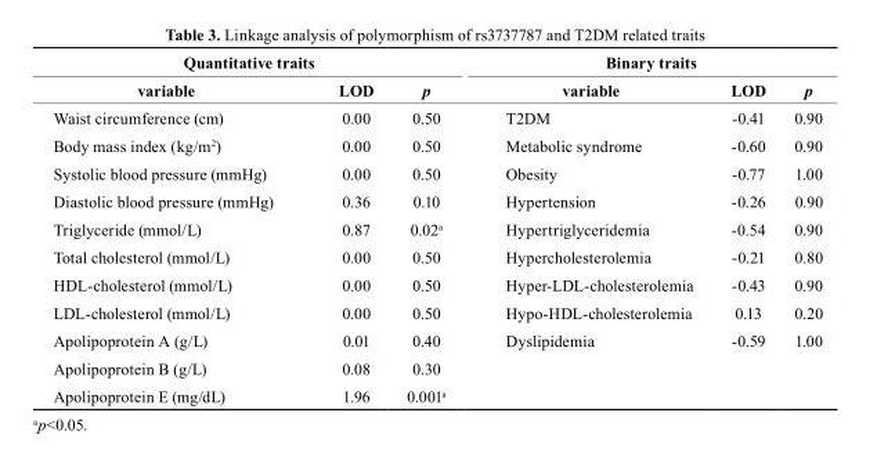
<table><thead><tr><td colspan="3">Quantitative traits</td><td colspan="3">binary traits</td></tr><tr><td>variable</td><td>LoD</td><td>p</td><td>variable</td><td>LoD</td><td>p</td></tr></thead><tbody><tr><td>Waist circumference (cm)</td><td>0.00</td><td>0.50</td><td>T2DM</td><td>-0.41</td><td>0.90</td></tr><tr><td>Body mass index (kg/m<sup>2</sup>)</td><td>0.00</td><td>0.50</td><td>Metabolic syndrome</td><td>-0.60</td><td>0.90</td></tr><tr><td>Systolic blood pressure (mmHg)</td><td>0.00</td><td>0.50</td><td>Obesity</td><td>-0.77</td><td>1.00</td></tr><tr><td>Diastolic blood pressure (mmHg)</td><td>0.36</td><td>0.10</td><td>Hypertension</td><td>-0.26</td><td>0.90</td></tr><tr><td>Triglyceride (mmol/L)</td><td>0.87</td><td>0.02<sup>a</sup></td><td>Hypertriglyceridemia</td><td>-0.54</td><td>0.90</td></tr><tr><td>Total cholesterol (mmol/L)</td><td>0.00</td><td>0.50</td><td>Hypercholesterolemia</td><td>-0.21</td><td>0.80</td></tr><tr><td>HDL-cholesterol (mmol/L)</td><td>0.00</td><td>0.50</td><td>Hyper-LDL-cholesterolemia</td><td>-0.43</td><td>0.90</td></tr><tr><td>LDL-cholesterol (mmol/L)</td><td>0.00</td><td>0.50</td><td>Hypo-HDL-cholesterolemia</td><td>0.13</td><td>0.20</td></tr><tr><td>Apolipoprotein A (g/L)</td><td>0.01</td><td>0.40</td><td>Dyslipidemia</td><td>-0.59</td><td>1.00</td></tr><tr><td>Apolipoprotein B (g/L)</td><td>0.08</td><td>0.30</td><td></td><td></td><td></td></tr><tr><td>Apolipoprotein E (mg/dL)</td><td>1.96</td><td>0.001<sup>a</sup></td><td></td><td></td><td></td></tr></tbody></table>